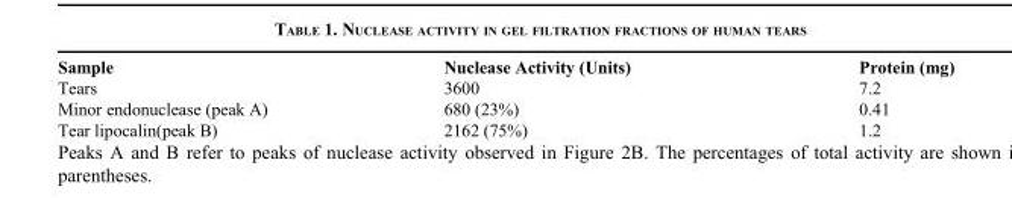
<table><thead><tr><td>Sample</td><td>Nuclease Activity (Units)</td><td>Protein (mg)</td></tr></thead><tbody><tr><td>Tears</td><td>3600</td><td>7.2</td></tr><tr><td>Minor endonuclease (peak A)</td><td>680 (23%)</td><td>0.41</td></tr><tr><td>Tear lipocalin(peak B)</td><td>2162 (75%)</td><td>1.2</td></tr></tbody></table>